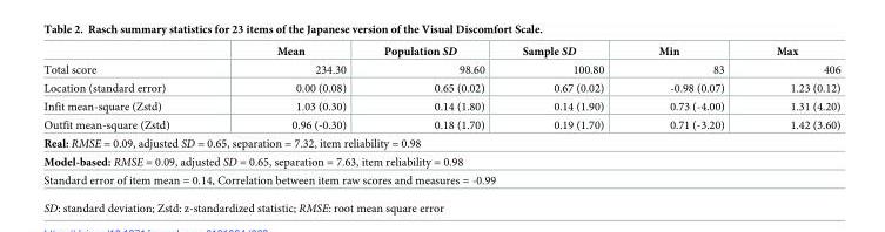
<table><thead><tr><td></td><td>Mean</td><td>Population SD</td><td>Sample SD</td><td>Min</td><td>Max</td></tr></thead><tbody><tr><td>Total score</td><td>234.30</td><td>98.60</td><td>100.80</td><td>83</td><td>406</td></tr><tr><td>Location (standard error)</td><td>0.00 (0.08)</td><td>0.65 (0.02)</td><td>0.67 (0.02)</td><td>-0.98 (0.07)</td><td>1.23 (0.12)</td></tr><tr><td>Infit mean-square (Zstd)</td><td>1.03 (0.30)</td><td>0.14 (1.80)</td><td>0.14 (1.90)</td><td>0.73 (-4.00)</td><td>1.31 (4.20)</td></tr><tr><td>Outfit mean-square (Zstd)</td><td>0.96 (-0.30)</td><td>0.18 (1.70)</td><td>0.19 (1.70)</td><td>0.71 (-3.20)</td><td>1.42 (3.60)</td></tr><tr><td colspan="6">Real: RMSE = 0.09, adjusted SD = 0.65, separation = 7.32, item reliability = 0.98</td></tr><tr><td colspan="6">Model-based: RMSE = 0.09, adjusted SD = 0.65, separation = 7.63, item reliability = 0.98</td></tr><tr><td colspan="6">Standard error of item mean = 0.14, Correlation between item raw scores and measures = -0.99</td></tr></tbody></table>